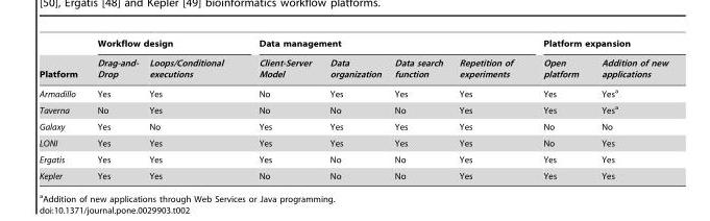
<table><thead><tr><td rowspan="2">Platform</td><td colspan="2">Workflow design</td><td colspan="4">Data management</td><td colspan="2">Platform expansion</td></tr><tr><td>Drag-and- Drop</td><td>Loops/Conditional executions</td><td>Client-Server Model</td><td>Data organization</td><td>Data search function</td><td>Repetition of experiments</td><td>Open platform</td><td>Addition of new applications</td></tr></thead><tbody><tr><td>Armadillo</td><td>Yes</td><td>Yes</td><td>No</td><td>Yes</td><td>Yes</td><td>Yes</td><td>Yes</td><td>Yes<sup>a</sup></td></tr><tr><td>Taverna</td><td>No</td><td>Yes</td><td>No</td><td>No</td><td>No</td><td>Yes</td><td>Yes</td><td>Yes<sup>a</sup></td></tr><tr><td>Galaxy</td><td>Yes</td><td>No</td><td>Yes</td><td>Yes</td><td>Yes</td><td>Yes</td><td>No</td><td>No</td></tr><tr><td>LONI</td><td>Yes</td><td>Yes</td><td>Yes</td><td>Yes</td><td>Yes</td><td>Yes</td><td>No</td><td>Yes</td></tr><tr><td>Ergatis</td><td>Yes</td><td>Yes</td><td>Yes</td><td>No</td><td>No</td><td>Yes</td><td>Yes</td><td>Yes</td></tr><tr><td>Kepler</td><td>Yes</td><td>Yes</td><td>No</td><td>No</td><td>No</td><td>Yes</td><td>Yes</td><td>Yes</td></tr></tbody></table>